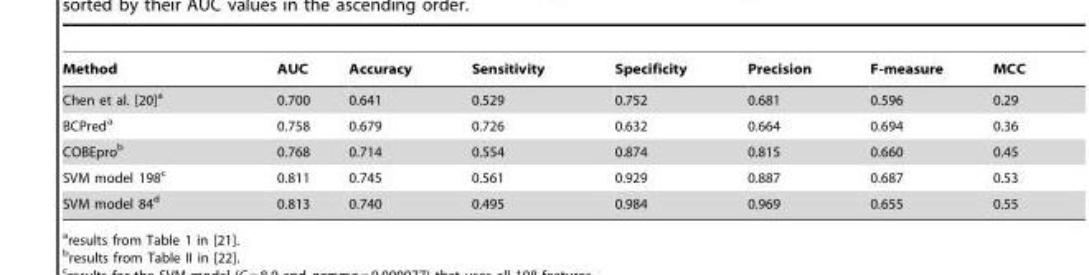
<table><thead><tr><td>Method</td><td>AUC</td><td>Accuracy</td><td>Sensitivity</td><td>Specificity</td><td>Precision</td><td>F-measure</td><td>MCC</td></tr></thead><tbody><tr><td>Chen et al. [20]a</td><td>0.700</td><td>0.641</td><td>0.529</td><td>0.752</td><td>0.681</td><td>0.596</td><td>0.29</td></tr><tr><td>BCPred<sup>a</sup></td><td>0.758</td><td>0.679</td><td>0.726</td><td>0.632</td><td>0.664</td><td>0.694</td><td>0.36</td></tr><tr><td>COBEpro<sup>b</sup></td><td>0.768</td><td>0.714</td><td>0.554</td><td>0.874</td><td>0.815</td><td>0.660</td><td>0.45</td></tr><tr><td>SVM model 198<sup>c</sup></td><td>0.811</td><td>0.745</td><td>0.561</td><td>0.929</td><td>0.887</td><td>0.687</td><td>0.53</td></tr><tr><td>SVM model 84<sup>d</sup></td><td>0.813</td><td>0.740</td><td>0.495</td><td>0.984</td><td>0.969</td><td>0.655</td><td>0.55</td></tr></tbody></table>